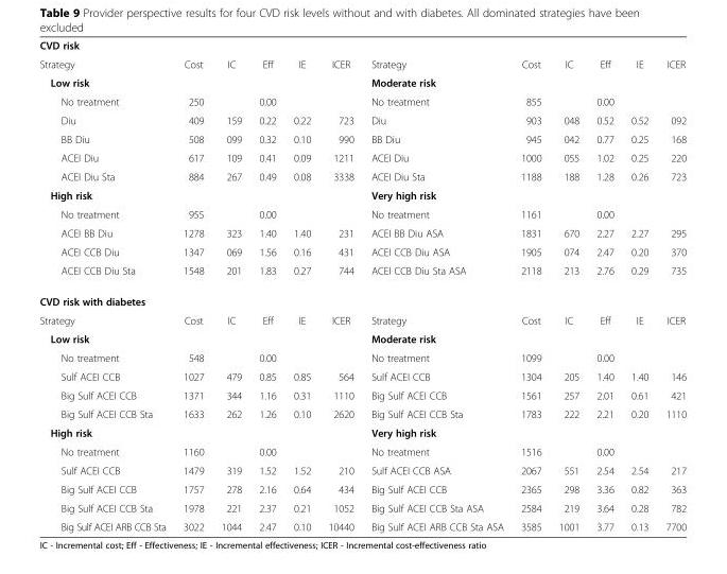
<table><tbody><tr><td colspan="12">CVD risk</td></tr><tr><td>Strategy</td><td>Cost</td><td>IC</td><td>Eff</td><td>IE</td><td>ICER</td><td>Strategy</td><td>Cost</td><td>IC</td><td>Eff</td><td>IE</td><td>ICER</td></tr><tr><td>Low risk</td><td></td><td></td><td></td><td></td><td></td><td>Moderate risk</td><td></td><td></td><td></td><td></td><td></td></tr><tr><td>No treatment</td><td>250</td><td></td><td>0.00</td><td></td><td></td><td>No treatment</td><td>855</td><td></td><td>0.00</td><td></td><td></td></tr><tr><td>Diu</td><td>409</td><td>159</td><td>0.22</td><td>0.22</td><td>723</td><td>Diu</td><td>903</td><td>048</td><td>0.52</td><td>0.52</td><td>092</td></tr><tr><td>BB Diu</td><td>508</td><td>099</td><td>0.32</td><td>0.10</td><td>990</td><td>BB Diu</td><td>945</td><td>042</td><td>0.77</td><td>0.25</td><td>168</td></tr><tr><td>ACEI Diu</td><td>617</td><td>109</td><td>0.41</td><td>0.09</td><td>1211</td><td>ACEI Diu</td><td>1000</td><td>055</td><td>1.02</td><td>0.25</td><td>220</td></tr><tr><td>ACEI Diu Sta</td><td>884</td><td>267</td><td>0.49</td><td>0.08</td><td>3338</td><td>ACEI Diu Sta</td><td>1188</td><td>188</td><td>1.28</td><td>0.26</td><td>723</td></tr><tr><td>High risk</td><td></td><td></td><td></td><td></td><td></td><td>Very high risk</td><td></td><td></td><td></td><td></td><td></td></tr><tr><td>No treatment</td><td>955</td><td></td><td>0.00</td><td></td><td></td><td>No treatment</td><td>1161</td><td></td><td>0.00</td><td></td><td></td></tr><tr><td>ACEI BB Diu</td><td>1278</td><td>323</td><td>1.40</td><td>1.40</td><td>231</td><td>ACEI BB Diu ASA</td><td>1831</td><td>670</td><td>2.27</td><td>2.27</td><td>295</td></tr><tr><td>ACEI CCB Diu</td><td>1347</td><td>069</td><td>1.56</td><td>0.16</td><td>431</td><td>ACEI CCB Diu ASA</td><td>1905</td><td>074</td><td>2.47</td><td>0.20</td><td>370</td></tr><tr><td>ACEI CCB Diu Sta</td><td>1548</td><td>201</td><td>1.83</td><td>0.27</td><td>744</td><td>ACEI CCB Diu Sta ASA</td><td>2118</td><td>213</td><td>2.76</td><td>0.29</td><td>735</td></tr><tr><td colspan="12">CVD risk with diabetes</td></tr><tr><td>Strategy</td><td>Cost</td><td>IC</td><td>Eff</td><td>IE</td><td>ICER</td><td>Strategy</td><td>Cost</td><td>IC</td><td>Eff</td><td>IE</td><td>ICER</td></tr><tr><td>Low risk</td><td></td><td></td><td></td><td></td><td></td><td>Moderate risk</td><td></td><td></td><td></td><td></td><td></td></tr><tr><td>No treatment</td><td>548</td><td></td><td>0.00</td><td></td><td></td><td>No treatment</td><td>1099</td><td></td><td>0.00</td><td></td><td></td></tr><tr><td>Sulf ACEI CCB</td><td>1027</td><td>479</td><td>0.85</td><td>0.85</td><td>564</td><td>Sulf ACEI CCB</td><td>1304</td><td>205</td><td>1.40</td><td>1.40</td><td>146</td></tr><tr><td>Big Sulf ACEI CCB</td><td>1371</td><td>344</td><td>1.16</td><td>0.31</td><td>1110</td><td>Big Sulf ACEI CCB</td><td>1561</td><td>257</td><td>2.01</td><td>0.61</td><td>421</td></tr><tr><td>Big Sulf ACEI CCB Sta</td><td>1633</td><td>262</td><td>1.26</td><td>0.10</td><td>2620</td><td>Big Sulf ACEI CCB Sta</td><td>1783</td><td>222</td><td>2.21</td><td>0.20</td><td>1110</td></tr><tr><td>High risk</td><td></td><td></td><td></td><td></td><td></td><td>Very high risk</td><td></td><td></td><td></td><td></td><td></td></tr><tr><td>No treatment</td><td>1160</td><td></td><td>0.00</td><td></td><td></td><td>No treatment</td><td>1516</td><td></td><td>0.00</td><td></td><td></td></tr><tr><td>Sulf ACEI CCB</td><td>1479</td><td>319</td><td>1.52</td><td>1.52</td><td>210</td><td>Sulf ACEI CCB ASA</td><td>2067</td><td>551</td><td>2.54</td><td>2.54</td><td>217</td></tr><tr><td>Big Sulf ACEI CCB</td><td>1757</td><td>278</td><td>2.16</td><td>0.64</td><td>434</td><td>Big Sulf ACEI CCB</td><td>2365</td><td>298</td><td>3.36</td><td>0.82</td><td>363</td></tr><tr><td>Big Sulf ACEI CCB Sta</td><td>1978</td><td>221</td><td>2.37</td><td>0.21</td><td>1052</td><td>Big Sulf ACEI CCB Sta ASA</td><td>2584</td><td>219</td><td>3.64</td><td>0.28</td><td>782</td></tr><tr><td>Big Sulf ACEI ARB CCB Sta</td><td>3022</td><td>1044</td><td>2.47</td><td>0.10</td><td>10440</td><td>Big Sulf ACEI ARB CCB Sta ASA</td><td>3585</td><td>1001</td><td>3.77</td><td>0.13</td><td>7700</td></tr></tbody></table>